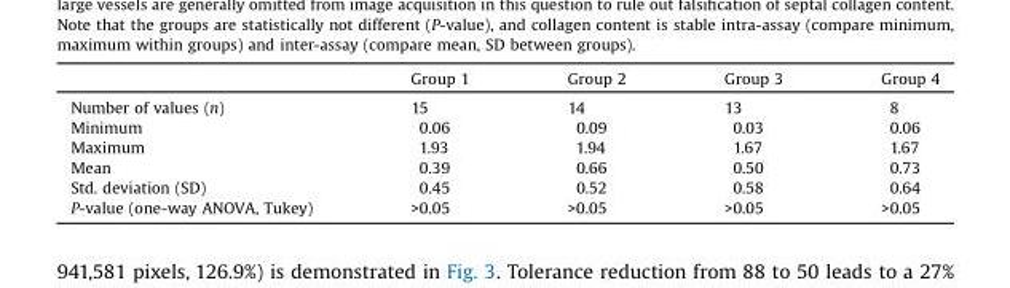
<table><thead><tr><td></td><td>Group 1</td><td>Group 2</td><td>Group 3</td><td>Group 4</td></tr></thead><tbody><tr><td>Number of values (n)</td><td>15</td><td>14</td><td>13</td><td>8</td></tr><tr><td>Minimum</td><td>0.06</td><td>0.09</td><td>0.03</td><td>0.06</td></tr><tr><td>Maximum</td><td>1.93</td><td>1.94</td><td>1.67</td><td>1.67</td></tr><tr><td>Mean</td><td>0.39</td><td>0.66</td><td>0.50</td><td>0.73</td></tr><tr><td>Std. deviation (SD)</td><td>0.45</td><td>0.52</td><td>0.58</td><td>0.64</td></tr><tr><td>P-value (one-way ANOVA, Tukey)</td><td>&gt;0.05</td><td>&gt;0.05</td><td>&gt;0.05</td><td>&gt;0.05</td></tr></tbody></table>